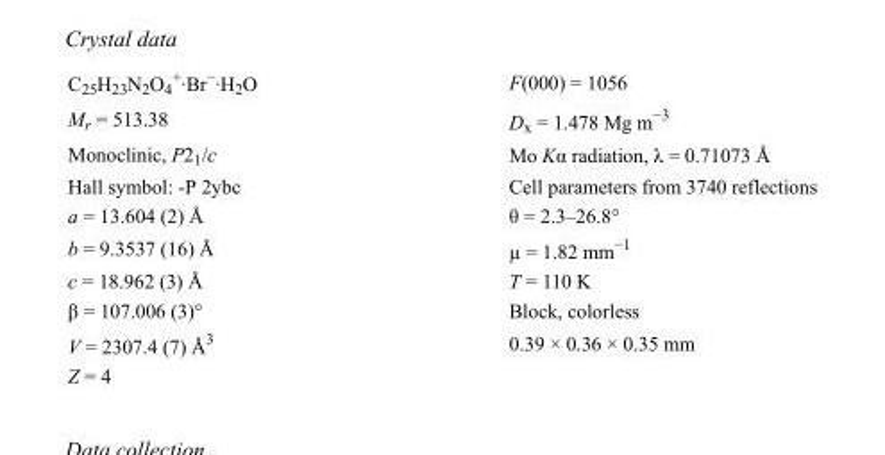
<table><tbody><tr><td>C<sub>25</sub>H<sub>23</sub>N<sub>2</sub>O<sub>4</sub> <sup>+</sup>·Br<sup>−</sup>·H<sub>2</sub>O</td><td>F(000) = 1056</td></tr><tr><td>M<sub>r</sub> = 513.38</td><td>D<sub>x</sub> = 1.478 Mg m<sup>−3</sup></td></tr><tr><td>Monoclinic, P2<sub>1</sub>/c</td><td>Mo Kα radiation, λ = 0.71073 Å</td></tr><tr><td>Hall symbol: -P 2ybc</td><td>Cell parameters from 3740 reflections</td></tr><tr><td>a = 13.604 (2) Å</td><td>θ = 2.3–26.8°</td></tr><tr><td>b = 9.3537 (16) Å</td><td>µ = 1.82 mm<sup>−1</sup></td></tr><tr><td>c = 18.962 (3) Å</td><td>T = 110 K</td></tr><tr><td>β = 107.006 (3)°</td><td>Block, colorless</td></tr><tr><td>V = 2307.4 (7) Å<sup>3</sup></td><td>0.39 × 0.36 × 0.35 mm</td></tr><tr><td>Z = 4</td><td></td></tr></tbody></table>